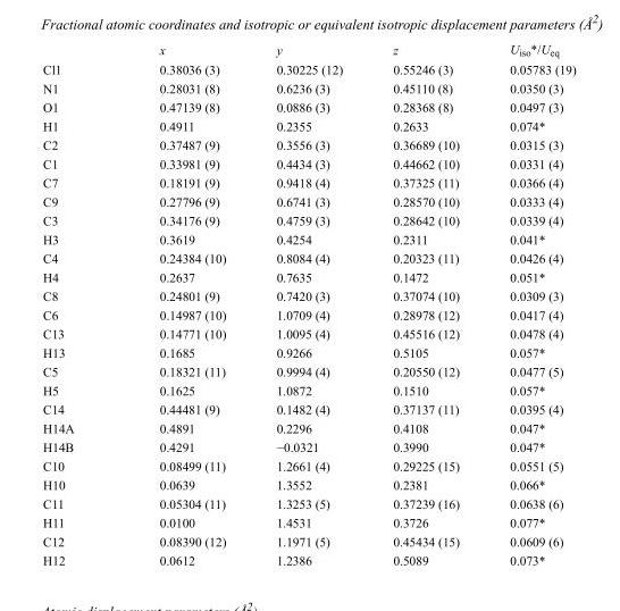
<table><thead><tr><td></td><td>x</td><td>y</td><td>z</td><td>U<sub>iso</sub>*/U<sub>eq</sub></td></tr></thead><tbody><tr><td>Cl1</td><td>0.38036 (3)</td><td>0.30225 (12)</td><td>0.55246 (3)</td><td>0.05783 (19)</td></tr><tr><td>N1</td><td>0.28031 (8)</td><td>0.6236 (3)</td><td>0.45110 (8)</td><td>0.0350 (3)</td></tr><tr><td>O1</td><td>0.47139 (8)</td><td>0.0886 (3)</td><td>0.28368 (8)</td><td>0.0497 (3)</td></tr><tr><td>H1</td><td>0.4911</td><td>0.2355</td><td>0.2633</td><td>0.074*</td></tr><tr><td>C2</td><td>0.37487 (9)</td><td>0.3556 (3)</td><td>0.36689 (10)</td><td>0.0315 (3)</td></tr><tr><td>C1</td><td>0.33981 (9)</td><td>0.4434 (3)</td><td>0.44662 (10)</td><td>0.0331 (4)</td></tr><tr><td>C7</td><td>0.18191 (9)</td><td>0.9418 (4)</td><td>0.37325 (11)</td><td>0.0366 (4)</td></tr><tr><td>C9</td><td>0.27796 (9)</td><td>0.6741 (3)</td><td>0.28570 (10)</td><td>0.0333 (4)</td></tr><tr><td>C3</td><td>0.34176 (9)</td><td>0.4759 (3)</td><td>0.28642 (10)</td><td>0.0339 (4)</td></tr><tr><td>H3</td><td>0.3619</td><td>0.4254</td><td>0.2311</td><td>0.041*</td></tr><tr><td>C4</td><td>0.24384 (10)</td><td>0.8084 (4)</td><td>0.20323 (11)</td><td>0.0426 (4)</td></tr><tr><td>H4</td><td>0.2637</td><td>0.7635</td><td>0.1472</td><td>0.051*</td></tr><tr><td>C8</td><td>0.24801 (9)</td><td>0.7420 (3)</td><td>0.37074 (10)</td><td>0.0309 (3)</td></tr><tr><td>C6</td><td>0.14987 (10)</td><td>1.0709 (4)</td><td>0.28978 (12)</td><td>0.0417 (4)</td></tr><tr><td>C13</td><td>0.14771 (10)</td><td>1.0095 (4)</td><td>0.45516 (12)</td><td>0.0478 (4)</td></tr><tr><td>H13</td><td>0.1685</td><td>0.9266</td><td>0.5105</td><td>0.057*</td></tr><tr><td>C5</td><td>0.18321 (11)</td><td>0.9994 (4)</td><td>0.20550 (12)</td><td>0.0477 (5)</td></tr><tr><td>H5</td><td>0.1625</td><td>1.0872</td><td>0.1510</td><td>0.057*</td></tr><tr><td>C14</td><td>0.44481 (9)</td><td>0.1482 (4)</td><td>0.37137 (11)</td><td>0.0395 (4)</td></tr><tr><td>H14A</td><td>0.4891</td><td>0.2296</td><td>0.4108</td><td>0.047*</td></tr><tr><td>H14B</td><td>0.4291</td><td>−0.0321</td><td>0.3990</td><td>0.047*</td></tr><tr><td>C10</td><td>0.08499 (11)</td><td>1.2661 (4)</td><td>0.29225 (15)</td><td>0.0551 (5)</td></tr><tr><td>H10</td><td>0.0639</td><td>1.3552</td><td>0.2381</td><td>0.066*</td></tr><tr><td>C11</td><td>0.05304 (11)</td><td>1.3253 (5)</td><td>0.37239 (16)</td><td>0.0638 (6)</td></tr><tr><td>H11</td><td>0.0100</td><td>1.4531</td><td>0.3726</td><td>0.077*</td></tr><tr><td>C12</td><td>0.08390 (12)</td><td>1.1971 (5)</td><td>0.45434 (15)</td><td>0.0609 (6)</td></tr><tr><td>H12</td><td>0.0612</td><td>1.2386</td><td>0.5089</td><td>0.073*</td></tr></tbody></table>